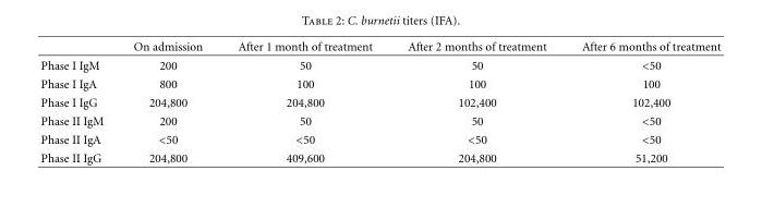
<table><thead><tr><td></td><td>On admission</td><td>After 1 month of treatment</td><td>After 2 months of treatment</td><td>After 6 months of treatment</td></tr></thead><tbody><tr><td>Phase I IgM</td><td>200</td><td>50</td><td>50</td><td>&lt;50</td></tr><tr><td>Phase I IgA</td><td>800</td><td>100</td><td>100</td><td>100</td></tr><tr><td>Phase I IgG</td><td>204,800</td><td>204,800</td><td>102,400</td><td>102,400</td></tr><tr><td>Phase II IgM</td><td>200</td><td>50</td><td>50</td><td>&lt;50</td></tr><tr><td>Phase II IgA</td><td>&lt;50</td><td>&lt;50</td><td>&lt;50</td><td>&lt;50</td></tr><tr><td>Phase II IgG</td><td>204,800</td><td>409,600</td><td>204,800</td><td>51,200</td></tr></tbody></table>